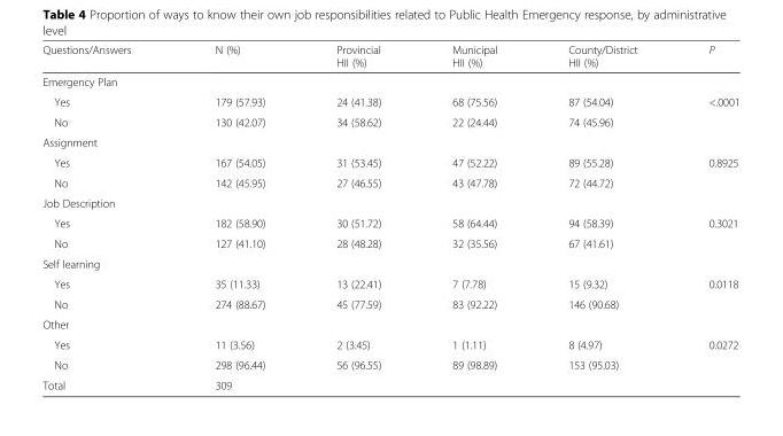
<table><thead><tr><td>Questions/Answers</td><td>N (%)</td><td>Provincial HII (%)</td><td>Municipal HII (%)</td><td>County/District HII (%)</td><td>P</td></tr></thead><tbody><tr><td colspan="6">Emergency Plan</td></tr><tr><td>Yes</td><td>179 (57.93)</td><td>24 (41.38)</td><td>68 (75.56)</td><td>87 (54.04)</td><td>&lt;.0001</td></tr><tr><td>No</td><td>130 (42.07)</td><td>34 (58.62)</td><td>22 (24.44)</td><td>74 (45.96)</td><td></td></tr><tr><td colspan="6">Assignment</td></tr><tr><td>Yes</td><td>167 (54.05)</td><td>31 (53.45)</td><td>47 (52.22)</td><td>89 (55.28)</td><td>0.8925</td></tr><tr><td>No</td><td>142 (45.95)</td><td>27 (46.55)</td><td>43 (47.78)</td><td>72 (44.72)</td><td></td></tr><tr><td colspan="6">Job Description</td></tr><tr><td>Yes</td><td>182 (58.90)</td><td>30 (51.72)</td><td>58 (64.44)</td><td>94 (58.39)</td><td>0.3021</td></tr><tr><td>No</td><td>127 (41.10)</td><td>28 (48.28)</td><td>32 (35.56)</td><td>67 (41.61)</td><td></td></tr><tr><td colspan="6">Self learning</td></tr><tr><td>Yes</td><td>35 (11.33)</td><td>13 (22.41)</td><td>7 (7.78)</td><td>15 (9.32)</td><td>0.0118</td></tr><tr><td>No</td><td>274 (88.67)</td><td>45 (77.59)</td><td>83 (92.22)</td><td>146 (90.68)</td><td></td></tr><tr><td colspan="6">Other</td></tr><tr><td>Yes</td><td>11 (3.56)</td><td>2 (3.45)</td><td>1 (1.11)</td><td>8 (4.97)</td><td>0.0272</td></tr><tr><td>No</td><td>298 (96.44)</td><td>56 (96.55)</td><td>89 (98.89)</td><td>153 (95.03)</td><td></td></tr><tr><td>Total</td><td>309</td><td></td><td></td><td></td><td></td></tr></tbody></table>